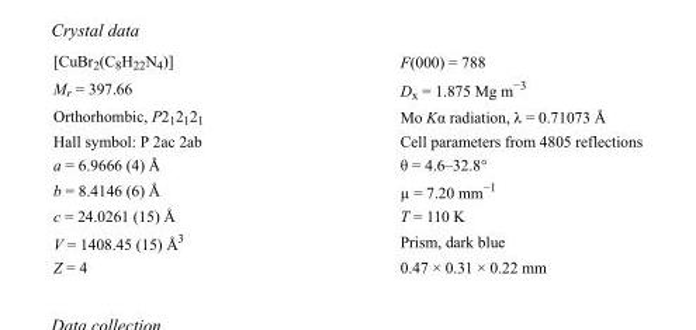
<table><tbody><tr><td>[CuBr<sub>2</sub>(C<sub>8</sub>H<sub>22</sub>N<sub>4</sub>)]</td><td>F(000) = 788</td></tr><tr><td>M<sub>r</sub> = 397.66</td><td>D<sub>x</sub> = 1.875 Mg m<sup>−3</sup></td></tr><tr><td>Orthorhombic, P2<sub>1</sub>2<sub>1</sub>2<sub>1</sub></td><td>Mo Kα radiation, λ = 0.71073 Å</td></tr><tr><td>Hall symbol: P 2ac 2ab</td><td>Cell parameters from 4805 reflections</td></tr><tr><td>a = 6.9666 (4) Å</td><td>θ = 4.6–32.8°</td></tr><tr><td>b = 8.4146 (6) Å</td><td>µ = 7.20 mm<sup>−1</sup></td></tr><tr><td>c = 24.0261 (15) Å</td><td>T = 110 K</td></tr><tr><td>V = 1408.45 (15) Å<sup>3</sup></td><td>Prism, dark blue</td></tr><tr><td>Z = 4</td><td>0.47 × 0.31 × 0.22 mm</td></tr></tbody></table>